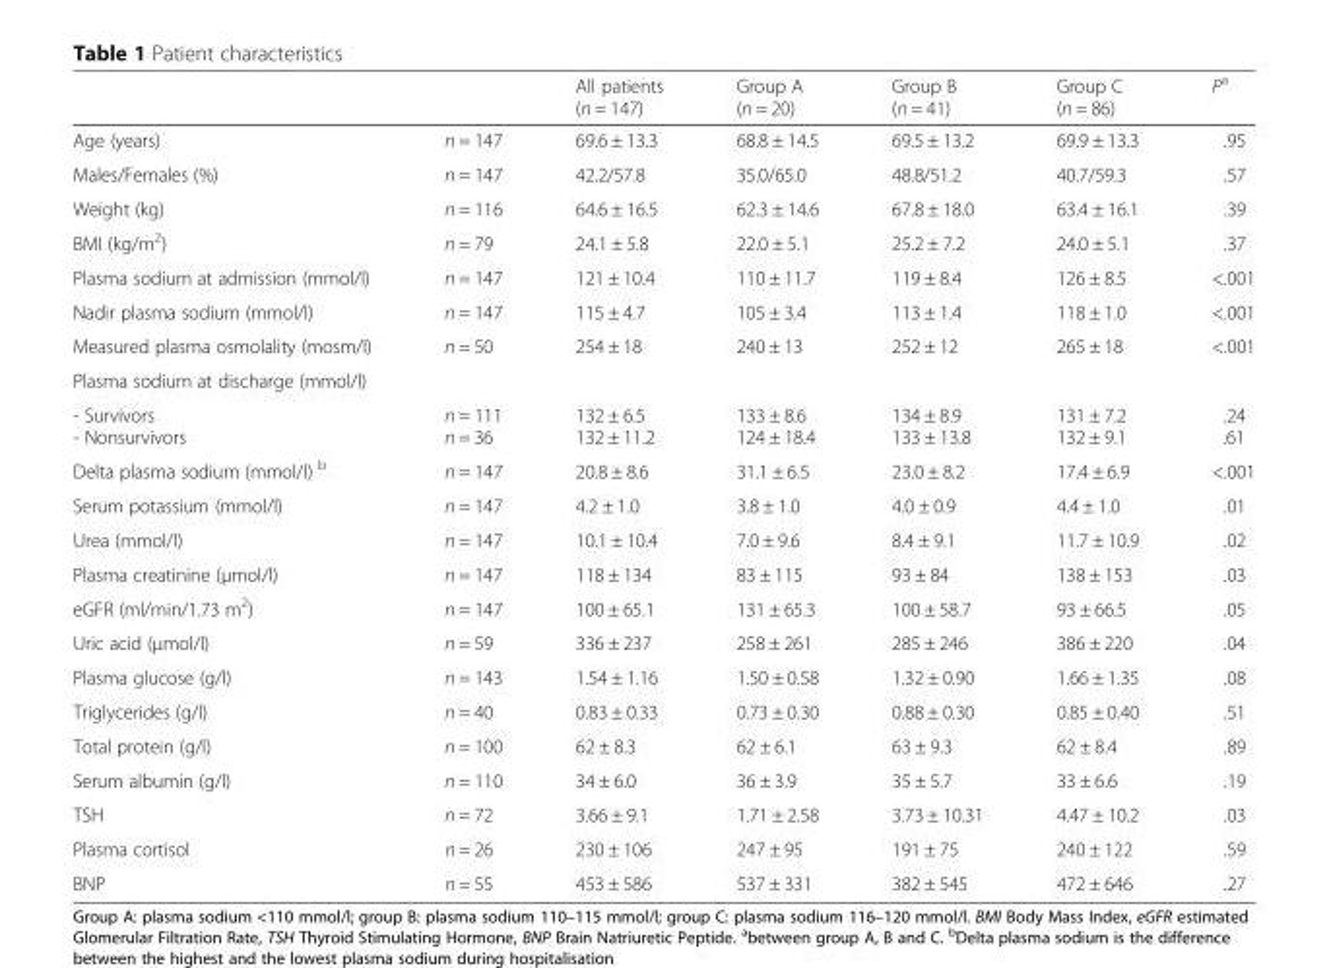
<table><thead><tr><td></td><td></td><td>All patients (n = 147)</td><td>Group A (n = 20)</td><td>Group B (n = 41)</td><td>Group C (n = 86)</td><td>P<sup>a</sup></td></tr></thead><tbody><tr><td>Age (years)</td><td>n = 147</td><td>69.6 ± 13.3</td><td>68.8 ± 14.5</td><td>69.5 ± 13.2</td><td>69.9 ± 13.3</td><td>.95</td></tr><tr><td>Males/Females (%)</td><td>n = 147</td><td>42.2/57.8</td><td>35.0/65.0</td><td>48.8/51.2</td><td>40.7/59.3</td><td>.57</td></tr><tr><td>Weight (kg)</td><td>n = 116</td><td>64.6 ± 16.5</td><td>62.3 ± 14.6</td><td>67.8 ± 18.0</td><td>63.4 ± 16.1</td><td>.39</td></tr><tr><td>BMI (kg/m<sup>2</sup>)</td><td>n = 79</td><td>24.1 ± 5.8</td><td>22.0 ± 5.1</td><td>25.2 ± 7.2</td><td>24.0 ± 5.1</td><td>.37</td></tr><tr><td>Plasma sodium at admission (mmol/l)</td><td>n = 147</td><td>121 ± 10.4</td><td>110 ± 11.7</td><td>119 ± 8.4</td><td>126 ± 8.5</td><td>&lt;.001</td></tr><tr><td>Nadir plasma sodium (mmol/l)</td><td>n = 147</td><td>115 ± 4.7</td><td>105 ± 3.4</td><td>113 ± 1.4</td><td>118 ± 1.0</td><td>&lt;.001</td></tr><tr><td>Measured plasma osmolality (mosm/l)</td><td>n = 50</td><td>254 ± 18</td><td>240 ± 13</td><td>252 ± 12</td><td>265 ± 18</td><td>&lt;.001</td></tr><tr><td colspan="7">Plasma sodium at discharge (mmol/l)</td></tr><tr><td>- Survivors - Nonsurvivors</td><td>n = 111 n = 36</td><td>132 ± 6.5 132 ± 11.2</td><td>133 ± 8.6 124 ± 18.4</td><td>134 ± 8.9 133 ± 13.8</td><td>131 ± 7.2 132 ± 9.1</td><td>.24 .61</td></tr><tr><td>Delta plasma sodium (mmol/l) <sup>b</sup></td><td>n = 147</td><td>20.8 ± 8.6</td><td>31.1 ± 6.5</td><td>23.0 ± 8.2</td><td>17.4 ± 6.9</td><td>&lt;.001</td></tr><tr><td>Serum potassium (mmol/l)</td><td>n = 147</td><td>4.2 ± 1.0</td><td>3.8 ± 1.0</td><td>4.0 ± 0.9</td><td>4.4 ± 1.0</td><td>.01</td></tr><tr><td>Urea (mmol/l)</td><td>n = 147</td><td>10.1 ± 10.4</td><td>7.0 ± 9.6</td><td>8.4 ± 9.1</td><td>11.7 ± 10.9</td><td>.02</td></tr><tr><td>Plasma creatinine (μmol/l)</td><td>n = 147</td><td>118 ± 134</td><td>83 ± 115</td><td>93 ± 84</td><td>138 ± 153</td><td>.03</td></tr><tr><td>eGFR (ml/min/1.73 m<sup>2</sup>)</td><td>n = 147</td><td>100 ± 65.1</td><td>131 ± 65.3</td><td>100 ± 58.7</td><td>93 ± 66.5</td><td>.05</td></tr><tr><td>Uric acid (μmol/l)</td><td>n = 59</td><td>336 ± 237</td><td>258 ± 261</td><td>285 ± 246</td><td>386 ± 220</td><td>.04</td></tr><tr><td>Plasma glucose (g/l)</td><td>n = 143</td><td>1.54 ± 1.16</td><td>1.50 ± 0.58</td><td>1.32 ± 0.90</td><td>1.66 ± 1.35</td><td>.08</td></tr><tr><td>Triglycerides (g/l)</td><td>n = 40</td><td>0.83 ± 0.33</td><td>0.73 ± 0.30</td><td>0.88 ± 0.30</td><td>0.85 ± 0.40</td><td>.51</td></tr><tr><td>Total protein (g/l)</td><td>n = 100</td><td>62 ± 8.3</td><td>62 ± 6.1</td><td>63 ± 9.3</td><td>62 ± 8.4</td><td>.89</td></tr><tr><td>Serum albumin (g/l)</td><td>n = 110</td><td>34 ± 6.0</td><td>36 ± 3.9</td><td>35 ± 5.7</td><td>33 ± 6.6</td><td>.19</td></tr><tr><td>TSH</td><td>n = 72</td><td>3.66 ± 9.1</td><td>1.71 ± 2.58</td><td>3.73 ± 10.31</td><td>4.47 ± 10.2</td><td>.03</td></tr><tr><td>Plasma cortisol</td><td>n = 26</td><td>230 ± 106</td><td>247 ± 95</td><td>191 ± 75</td><td>240 ± 122</td><td>.59</td></tr><tr><td>BNP</td><td>n = 55</td><td>453 ± 586</td><td>537 ± 331</td><td>382 ± 545</td><td>472 ± 646</td><td>.27</td></tr></tbody></table>